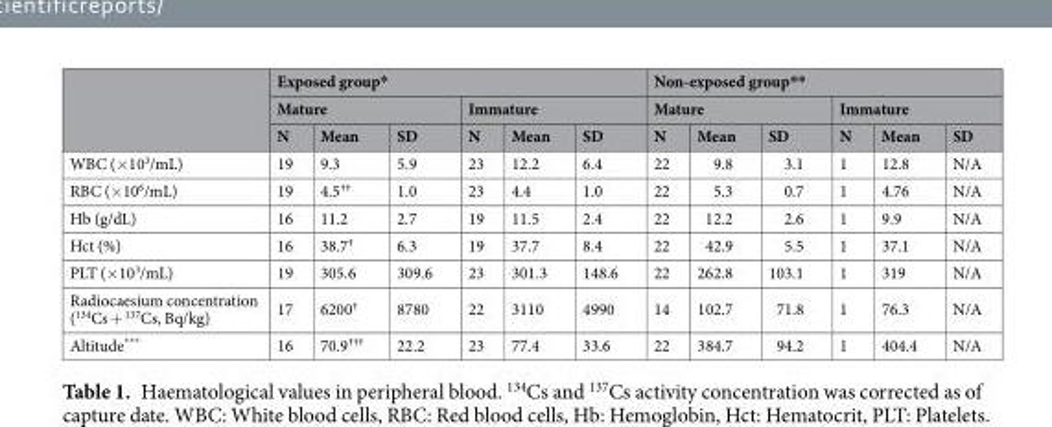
<table><thead><tr><td rowspan="3"></td><td colspan="6">Exposed group*</td><td colspan="6">Non-exposed group**</td></tr><tr><td colspan="3">Mature</td><td colspan="3">Immature</td><td colspan="3">Mature</td><td colspan="3">Immature</td></tr><tr><td>N</td><td>Mean</td><td>SD</td><td>N</td><td>Mean</td><td>SD</td><td>N</td><td>Mean</td><td>SD</td><td>N</td><td>Mean</td><td>SD</td></tr></thead><tbody><tr><td>WBC (×10<sup>3</sup>/mL)</td><td>19</td><td>9.3</td><td>5.9</td><td>23</td><td>12.2</td><td>6.4</td><td>22</td><td>9.8</td><td>3.1</td><td>1</td><td>12.8</td><td>N/A</td></tr><tr><td>RBC (×10<sup>6</sup>/mL)</td><td>19</td><td>4.5<sup>††</sup></td><td>1.0</td><td>23</td><td>4.4</td><td>1.0</td><td>22</td><td>5.3</td><td>0.7</td><td>1</td><td>4.76</td><td>N/A</td></tr><tr><td>Hb (g/dL)</td><td>16</td><td>11.2</td><td>2.7</td><td>19</td><td>11.5</td><td>2.4</td><td>22</td><td>12.2</td><td>2.6</td><td>1</td><td>9.9</td><td>N/A</td></tr><tr><td>Hct (%)</td><td>16</td><td>38.7<sup>†</sup></td><td>6.3</td><td>19</td><td>37.7</td><td>8.4</td><td>22</td><td>42.9</td><td>5.5</td><td>1</td><td>37.1</td><td>N/A</td></tr><tr><td>PLT (×10<sup>3</sup>/mL)</td><td>19</td><td>305.6</td><td>309.6</td><td>23</td><td>301.3</td><td>148.6</td><td>22</td><td>262.8</td><td>103.1</td><td>1</td><td>319</td><td>N/A</td></tr><tr><td>Radiocaesium concentration (<sup>134</sup>Cs + <sup>137</sup>Cs, Bq/kg)</td><td>17</td><td>6200<sup>†</sup></td><td>8780</td><td>22</td><td>3110</td><td>4990</td><td>14</td><td>102.7</td><td>71.8</td><td>1</td><td>76.3</td><td>N/A</td></tr><tr><td>Altitude***</td><td>16</td><td>70.9<sup>†††</sup></td><td>22.2</td><td>23</td><td>77.4</td><td>33.6</td><td>22</td><td>384.7</td><td>94.2</td><td>1</td><td>404.4</td><td>N/A</td></tr></tbody></table>